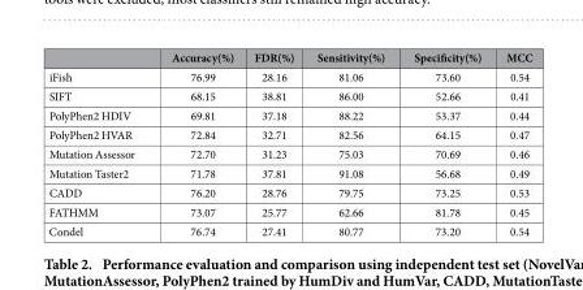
<table><thead><tr><td></td><td>Accuracy(%)</td><td>FDR(%)</td><td>Sensitivity(%)</td><td>Specificity(%)</td><td>MCC</td></tr></thead><tbody><tr><td>iFish</td><td>76.99</td><td>28.16</td><td>81.06</td><td>73.60</td><td>0.54</td></tr><tr><td>SIFT</td><td>68.15</td><td>38.81</td><td>86.00</td><td>52.66</td><td>0.41</td></tr><tr><td>PolyPhen2 HDIV</td><td>69.81</td><td>37.18</td><td>88.22</td><td>53.37</td><td>0.44</td></tr><tr><td>PolyPhen2 HVAR</td><td>72.84</td><td>32.71</td><td>82.56</td><td>64.15</td><td>0.47</td></tr><tr><td>Mutation Assessor</td><td>72.70</td><td>31.23</td><td>75.03</td><td>70.69</td><td>0.46</td></tr><tr><td>Mutation Taster2</td><td>71.78</td><td>37.81</td><td>91.08</td><td>56.68</td><td>0.49</td></tr><tr><td>CADD</td><td>76.20</td><td>28.76</td><td>79.75</td><td>73.25</td><td>0.53</td></tr><tr><td>FATHMM</td><td>73.07</td><td>25.77</td><td>62.66</td><td>81.78</td><td>0.45</td></tr><tr><td>Condel</td><td>76.74</td><td>27.41</td><td>80.77</td><td>73.20</td><td>0.54</td></tr></tbody></table>